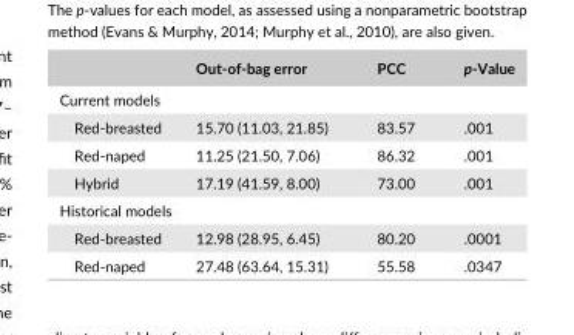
<table><thead><tr><td></td><td>Out- of- bag error</td><td>PCC</td><td>p- Value</td></tr></thead><tbody><tr><td colspan="4">Current models</td></tr><tr><td>Red- breasted</td><td>15.70 (11.03, 21.85)</td><td>83.57</td><td>.001</td></tr><tr><td>Red- naped</td><td>11.25 (21.50, 7.06)</td><td>86.32</td><td>.001</td></tr><tr><td>Hybrid</td><td>17.19 (41.59, 8.00)</td><td>73.00</td><td>.001</td></tr><tr><td colspan="4">Historical models</td></tr><tr><td>Red- breasted</td><td>12.98 (28.95, 6.45)</td><td>80.20</td><td>.0001</td></tr><tr><td>Red- naped</td><td>27.48 (63.64, 15.31)</td><td>55.58</td><td>.0347</td></tr></tbody></table>